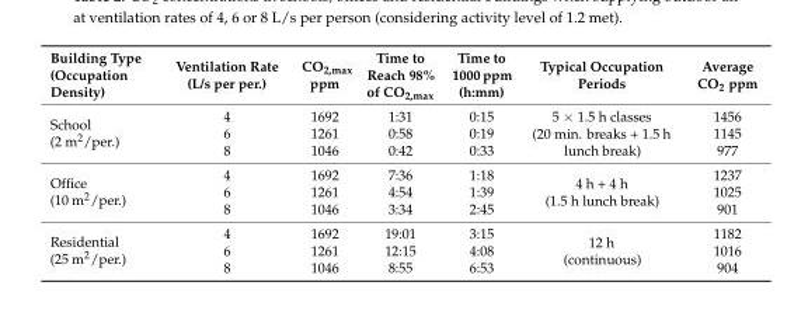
<table><thead><tr><td>Building Type (Occupation Density)</td><td>Ventilation Rate (L/s per per.)</td><td>CO<sub>2,max</sub> ppm</td><td>Time to Reach 98% of CO<sub>2,max</sub></td><td>Time to 1000 ppm (h:mm)</td><td>Typical Occupation Periods</td><td>Average CO<sub>2</sub> ppm</td></tr></thead><tbody><tr><td rowspan="3">School (2 m<sup>2</sup>/per.)</td><td>4</td><td>1692</td><td>1:31</td><td>0:15</td><td rowspan="3">5 × 1.5 h classes (20 min. breaks + 1.5 h lunch break)</td><td>1456</td></tr><tr><td>6</td><td>1261</td><td>0:58</td><td>0:19</td><td>1145</td></tr><tr><td>8</td><td>1046</td><td>0:42</td><td>0:33</td><td>977</td></tr><tr><td rowspan="3">Office (10 m<sup>2</sup>/per.)</td><td>4</td><td>1692</td><td>7:36</td><td>1:18</td><td rowspan="3">4 h + 4 h (1.5 h lunch break)</td><td>1237</td></tr><tr><td>6</td><td>1261</td><td>4:54</td><td>1:39</td><td>1025</td></tr><tr><td>8</td><td>1046</td><td>3:34</td><td>2:45</td><td>901</td></tr><tr><td rowspan="3">Residential (25 m<sup>2</sup>/per.)</td><td>4</td><td>1692</td><td>19:01</td><td>3:15</td><td rowspan="3">12 h (continuous)</td><td>1182</td></tr><tr><td>6</td><td>1261</td><td>12:15</td><td>4:08</td><td>1016</td></tr><tr><td>8</td><td>1046</td><td>8:55</td><td>6:53</td><td>904</td></tr></tbody></table>